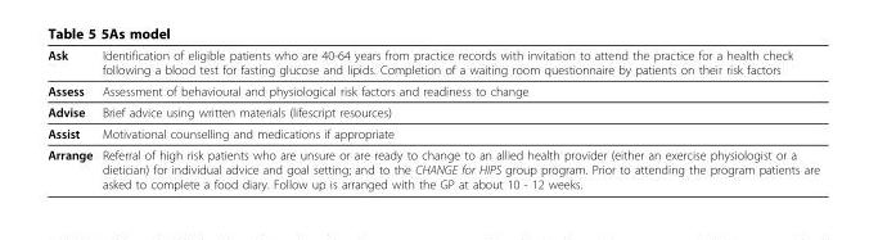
<table><thead><tr><td>Ask</td><td>Identification of eligible patients who are 40-64 years from practice records with invitation to attend the practice for a health check following a blood test for fasting glucose and lipids. Completion of a waiting room questionnaire by patients on their risk factors</td></tr></thead><tbody><tr><td>Assess</td><td>Assessment of behavioural and physiological risk factors and readiness to change</td></tr><tr><td>Advise</td><td>Brief advice using written materials (lifescript resources)</td></tr><tr><td>Assist</td><td>Motivational counselling and medications if appropriate</td></tr><tr><td>Arrange</td><td>Referral of high risk patients who are unsure or are ready to change to an allied health provider (either an exercise physiologist or a dietician) for individual advice and goal setting; and to the CHANGE for HIPS group program. Prior to attending the program patients are asked to complete a food diary. Follow up is arranged with the GP at about 10 - 12 weeks.</td></tr></tbody></table>